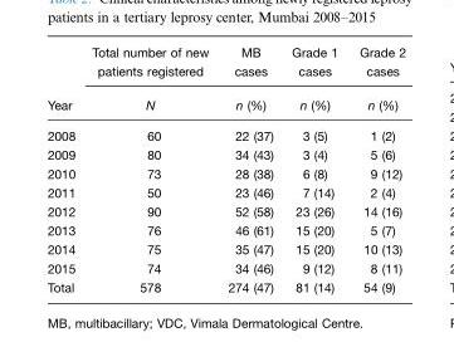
<table><thead><tr><td rowspan="2">Year</td><td rowspan="2">Total number of new patients registered N</td><td rowspan="2">MB cases n (%)</td><td rowspan="2">Grade 1 cases n (%)</td><td rowspan="2">Grade 2 cases n (%)</td></tr><tr></tr></thead><tbody><tr><td>2008</td><td>60</td><td>22 (37)</td><td>3 (5)</td><td>1 (2)</td></tr><tr><td>2009</td><td>80</td><td>34 (43)</td><td>3 (4)</td><td>5 (6)</td></tr><tr><td>2010</td><td>73</td><td>28 (38)</td><td>6 (8)</td><td>9 (12)</td></tr><tr><td>2011</td><td>50</td><td>23 (46)</td><td>7 (14)</td><td>2 (4)</td></tr><tr><td>2012</td><td>90</td><td>52 (58)</td><td>23 (26)</td><td>14 (16)</td></tr><tr><td>2013</td><td>76</td><td>46 (61)</td><td>15 (20)</td><td>5 (7)</td></tr><tr><td>2014</td><td>75</td><td>35 (47)</td><td>15 (20)</td><td>10 (13)</td></tr><tr><td>2015</td><td>74</td><td>34 (46)</td><td>9 (12)</td><td>8 (11)</td></tr><tr><td>Total</td><td>578</td><td>274 (47)</td><td>81 (14)</td><td>54 (9)</td></tr></tbody></table>